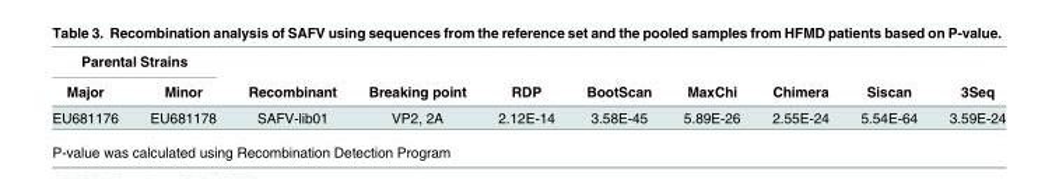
<table><thead><tr><td colspan="2">Parental Strains</td><td rowspan="2">Recombinant</td><td rowspan="2">Breaking point</td><td rowspan="2">RDP</td><td rowspan="2">BootScan</td><td rowspan="2">MaxChi</td><td rowspan="2">Chimera</td><td rowspan="2">Siscan</td><td rowspan="2">3Seq</td></tr><tr><td>Major</td><td>Minor</td></tr></thead><tbody><tr><td>EU681176</td><td>EU681178</td><td>SAFV-lib01</td><td>VP2, 2A</td><td>2.12E-14</td><td>3.58E-45</td><td>5.89E-26</td><td>2.55E-24</td><td>5.54E-64</td><td>3.59E-24</td></tr></tbody></table>